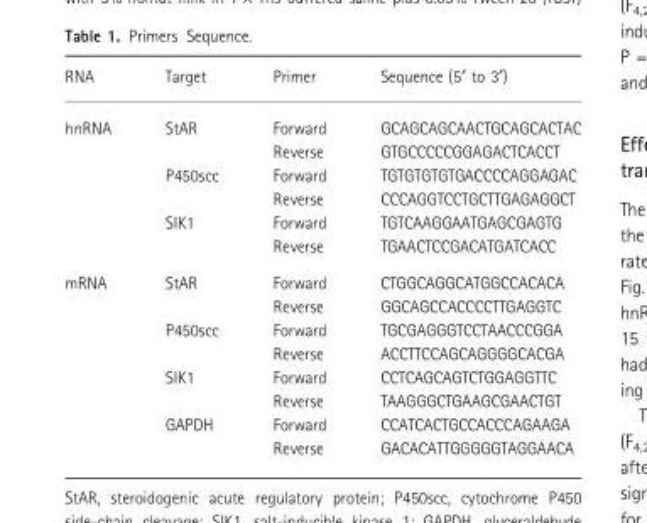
<table><thead><tr><td>RNA</td><td>Target</td><td>Primer</td><td>Sequence (5¢ to 3¢)</td></tr></thead><tbody><tr><td rowspan="6">hnRNA</td><td>StAR</td><td>Forward</td><td>GCAGCAGCAACTGCAGCACTAC</td></tr><tr><td></td><td>Reverse</td><td>GTGCCCCCGGAGACTCACCT</td></tr><tr><td>P450scc</td><td>Forward</td><td>TGTGTGTGTGACCCCAGGAGAC</td></tr><tr><td></td><td>Reverse</td><td>CCCAGGTCCTGCTTGAGAGGCT</td></tr><tr><td>SIK1</td><td>Forward</td><td>TGTCAAGGAATGAGCGAGTG</td></tr><tr><td></td><td>Reverse</td><td>TGAACTCCGACATGATCACC</td></tr><tr><td rowspan="8">mRNA</td><td>StAR</td><td>Forward</td><td>CTGGCAGGCATGGCCACACA</td></tr><tr><td></td><td>Reverse</td><td>GGCAGCCACCCCTTGAGGTC</td></tr><tr><td>P450scc</td><td>Forward</td><td>TGCGAGGGTCCTAACCCGGA</td></tr><tr><td></td><td>Reverse</td><td>ACCTTCCAGCAGGGGCACGA</td></tr><tr><td>SIK1</td><td>Forward</td><td>CCTCAGCAGTCTGGAGGTTC</td></tr><tr><td></td><td>Reverse</td><td>TAAGGGCTGAAGCGAACTGT</td></tr><tr><td>GAPDH</td><td>Forward</td><td>CCATCACTGCCACCCAGAAGA</td></tr><tr><td></td><td>Reverse</td><td>GACACATTGGGGGTAGGAACA</td></tr></tbody></table>